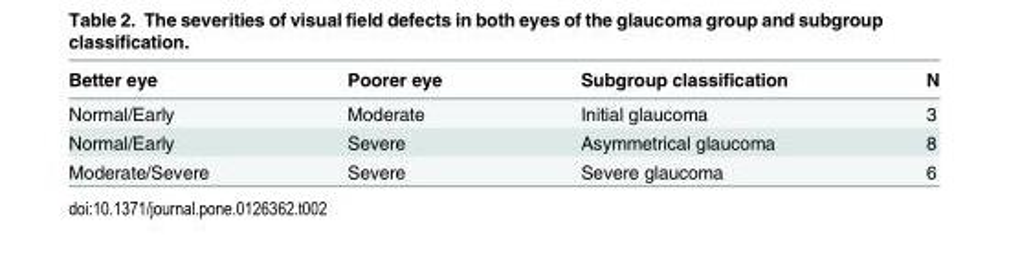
<table><thead><tr><td>Better eye</td><td>Poorer eye</td><td>Subgroup classification</td><td>N</td></tr></thead><tbody><tr><td>Normal/Early</td><td>Moderate</td><td>Initial glaucoma</td><td>3</td></tr><tr><td>Normal/Early</td><td>Severe</td><td>Asymmetrical glaucoma</td><td>8</td></tr><tr><td>Moderate/Severe</td><td>Severe</td><td>Severe glaucoma</td><td>6</td></tr></tbody></table>